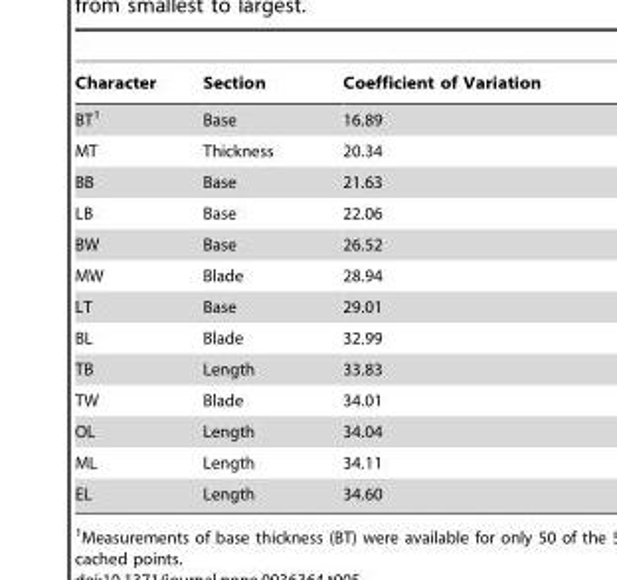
<table><thead><tr><td>Character</td><td>Section</td><td>Coefficient of Variation</td></tr></thead><tbody><tr><td>BT<sup>1</sup></td><td>Base</td><td>16.89</td></tr><tr><td>MT</td><td>Thickness</td><td>20.34</td></tr><tr><td>BB</td><td>Base</td><td>21.63</td></tr><tr><td>LB</td><td>Base</td><td>22.06</td></tr><tr><td>BW</td><td>Base</td><td>26.52</td></tr><tr><td>MW</td><td>Blade</td><td>28.94</td></tr><tr><td>LT</td><td>Base</td><td>29.01</td></tr><tr><td>BL</td><td>Blade</td><td>32.99</td></tr><tr><td>TB</td><td>Length</td><td>33.83</td></tr><tr><td>TW</td><td>Blade</td><td>34.01</td></tr><tr><td>OL</td><td>Length</td><td>34.04</td></tr><tr><td>ML</td><td>Length</td><td>34.11</td></tr><tr><td>EL</td><td>Length</td><td>34.60</td></tr></tbody></table>